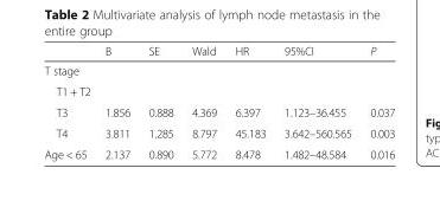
<table><thead><tr><td></td><td>B</td><td>SE</td><td>Wald</td><td>HR</td><td>95%CI</td><td>P</td></tr></thead><tbody><tr><td colspan="7">T stage</td></tr><tr><td colspan="7">T1 + T2</td></tr><tr><td>T3</td><td>1.856</td><td>0.888</td><td>4.369</td><td>6.397</td><td>1.123–36.455</td><td>0.037</td></tr><tr><td>T4</td><td>3.811</td><td>1.285</td><td>8.797</td><td>45.183</td><td>3.642–560.565</td><td>0.003</td></tr><tr><td>Age &lt; 65</td><td>2.137</td><td>0.890</td><td>5.772</td><td>8.478</td><td>1.482–48.584</td><td>0.016</td></tr></tbody></table>